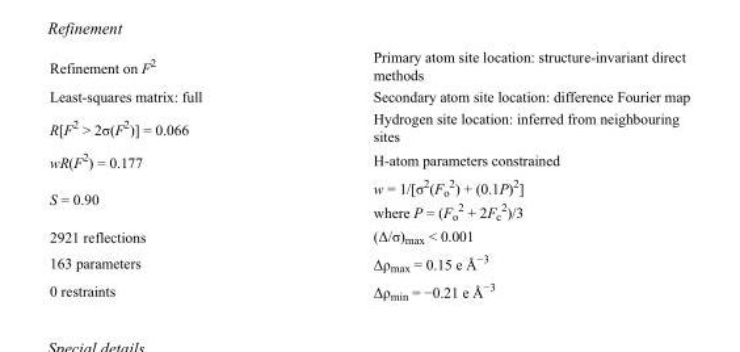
<table><tbody><tr><td>Refinement on F<sup>2</sup></td><td>Primary atom site location: structure-invariant direct methods</td></tr><tr><td>Least-squares matrix: full</td><td>Secondary atom site location: difference Fourier map</td></tr><tr><td>R[F<sup>2</sup> &gt; 2σ(F<sup>2</sup>)] = 0.066</td><td>Hydrogen site location: inferred from neighbouring sites</td></tr><tr><td>wR(F<sup>2</sup>) = 0.177</td><td>H-atom parameters constrained</td></tr><tr><td>S = 0.90</td><td>w = 1/[σ<sup>2</sup>(F<sub>o</sub> <sup>2</sup>) + (0.1P)<sup>2</sup>] where P = (F<sub>o</sub> <sup>2</sup> + 2F<sub>c</sub> <sup>2</sup>)/3</td></tr><tr><td>2921 reflections</td><td>(Δ/σ)<sub>max</sub> &lt; 0.001</td></tr><tr><td>163 parameters</td><td>Δρ<sub>max</sub> = 0.15 e Å<sup>−3</sup></td></tr><tr><td>0 restraints</td><td>Δρ<sub>min</sub> = −0.21 e Å<sup>−3</sup></td></tr></tbody></table>